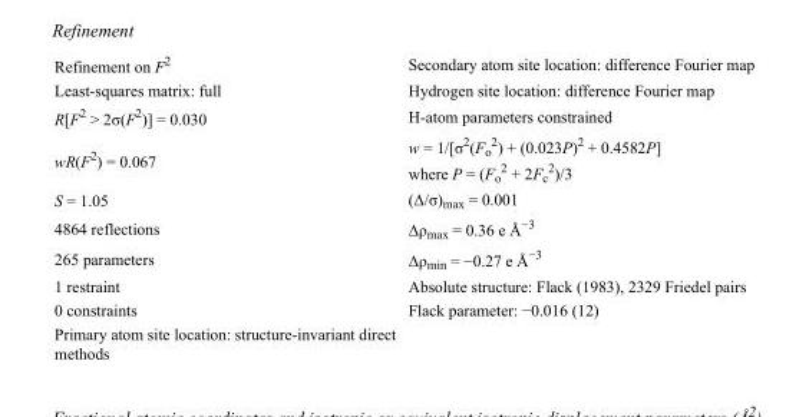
<table><tbody><tr><td>Refinement on F<sup>2</sup></td><td>Secondary atom site location: difference Fourier map</td></tr><tr><td>Least-squares matrix: full</td><td>Hydrogen site location: difference Fourier map</td></tr><tr><td>R[F<sup>2</sup> &gt; 2σ(F<sup>2</sup>)] = 0.030</td><td>H-atom parameters constrained</td></tr><tr><td>wR(F<sup>2</sup>) = 0.067</td><td>w = 1/[σ<sup>2</sup>(F<sub>o</sub> <sup>2</sup>) + (0.023P)<sup>2</sup> + 0.4582P] where P = (F<sub>o</sub> <sup>2</sup> + 2F<sub>c</sub> <sup>2</sup>)/3</td></tr><tr><td>S = 1.05</td><td>(Δ/σ)<sub>max</sub> = 0.001</td></tr><tr><td>4864 reflections</td><td>Δρ<sub>max</sub> = 0.36 e Å<sup>−3</sup></td></tr><tr><td>265 parameters</td><td>Δρ<sub>min</sub> = −0.27 e Å<sup>−3</sup></td></tr><tr><td>1 restraint</td><td>Absolute structure: Flack (1983), 2329 Friedel pairs</td></tr><tr><td>0 constraints</td><td>Flack parameter: −0.016 (12)</td></tr><tr><td>Primary atom site location: structure-invariant direct methods</td><td></td></tr></tbody></table>